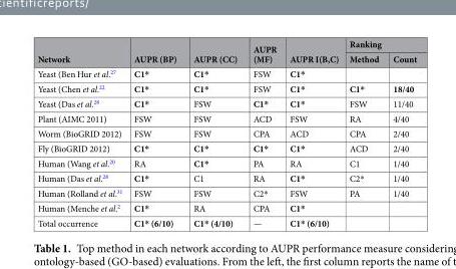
<table><thead><tr><td rowspan="2">Network</td><td rowspan="2">AUPR (BP)</td><td rowspan="2">AUPR (CC)</td><td rowspan="2">AUPR (MF)</td><td rowspan="2">AUPR I(B,C)</td><td colspan="2">Ranking</td></tr><tr><td>Method</td><td>Count</td></tr></thead><tbody><tr><td>Yeast (Ben Hur et al.<sup>27</sup></td><td>C1*</td><td>C1*</td><td>FSW</td><td>C1*</td><td></td><td></td></tr><tr><td>Yeast (Chen et al.<sup>22</sup></td><td>C1*</td><td>C1*</td><td>FSW</td><td>C1*</td><td>C1*</td><td>18/40</td></tr><tr><td>Yeast (Das et al.<sup>28</sup></td><td>C1*</td><td>FSW</td><td>C1*</td><td>C1*</td><td>FSW</td><td>11/40</td></tr><tr><td>Plant (AIMC 2011)</td><td>FSW</td><td>FSW</td><td>ACD</td><td>FSW</td><td>RA</td><td>4/40</td></tr><tr><td>Worm (BioGRID 2012)</td><td>FSW</td><td>FSW</td><td>CPA</td><td>ACD</td><td>CPA</td><td>2/40</td></tr><tr><td>Fly (BioGRID 2012)</td><td>C1*</td><td>C1*</td><td>C1*</td><td>C1*</td><td>ACD</td><td>2/40</td></tr><tr><td>Human (Wang et al.<sup>20</sup></td><td>RA</td><td>C1*</td><td>PA</td><td>RA</td><td>C1</td><td>1/40</td></tr><tr><td>Human (Das et al.<sup>28</sup></td><td>C1*</td><td>C1</td><td>RA</td><td>C1*</td><td>C2*</td><td>1/40</td></tr><tr><td>Human (Rolland et al.<sup>31</sup></td><td>FSW</td><td>FSW</td><td>C2*</td><td>FSW</td><td>PA</td><td>1/40</td></tr><tr><td>Human (Menche et al.<sup>2</sup></td><td>C1*</td><td>RA</td><td>CPA</td><td>C1*</td><td></td><td></td></tr><tr><td>Total occurrence</td><td>C1* (6/10)</td><td>C1* (4/10)</td><td>—</td><td>C1* (6/10)</td><td></td><td></td></tr></tbody></table>